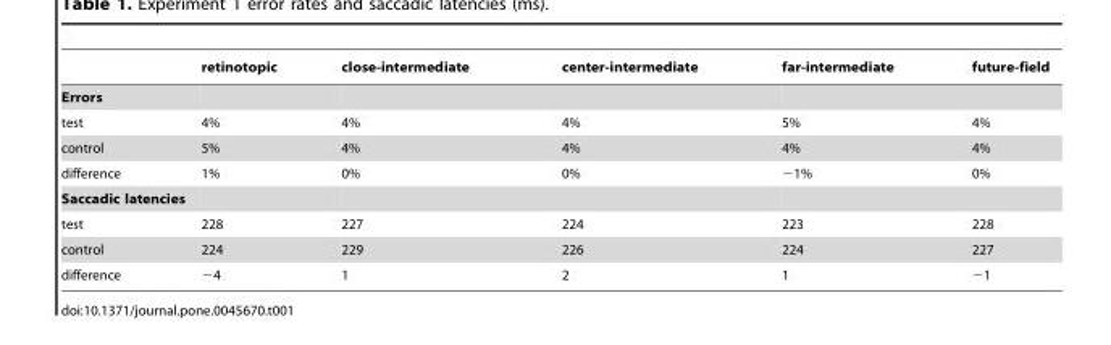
<table><thead><tr><td></td><td>retinotopic</td><td>close-intermediate</td><td>center-intermediate</td><td>far-intermediate</td><td>future-field</td></tr></thead><tbody><tr><td colspan="6">Errors</td></tr><tr><td>test</td><td>4%</td><td>4%</td><td>4%</td><td>5%</td><td>4%</td></tr><tr><td>control</td><td>5%</td><td>4%</td><td>4%</td><td>4%</td><td>4%</td></tr><tr><td>difference</td><td>1%</td><td>0%</td><td>0%</td><td>−1%</td><td>0%</td></tr><tr><td colspan="6">Saccadic latencies</td></tr><tr><td>test</td><td>228</td><td>227</td><td>224</td><td>223</td><td>228</td></tr><tr><td>control</td><td>224</td><td>229</td><td>226</td><td>224</td><td>227</td></tr><tr><td>difference</td><td>−4</td><td>1</td><td>2</td><td>1</td><td>−1</td></tr></tbody></table>